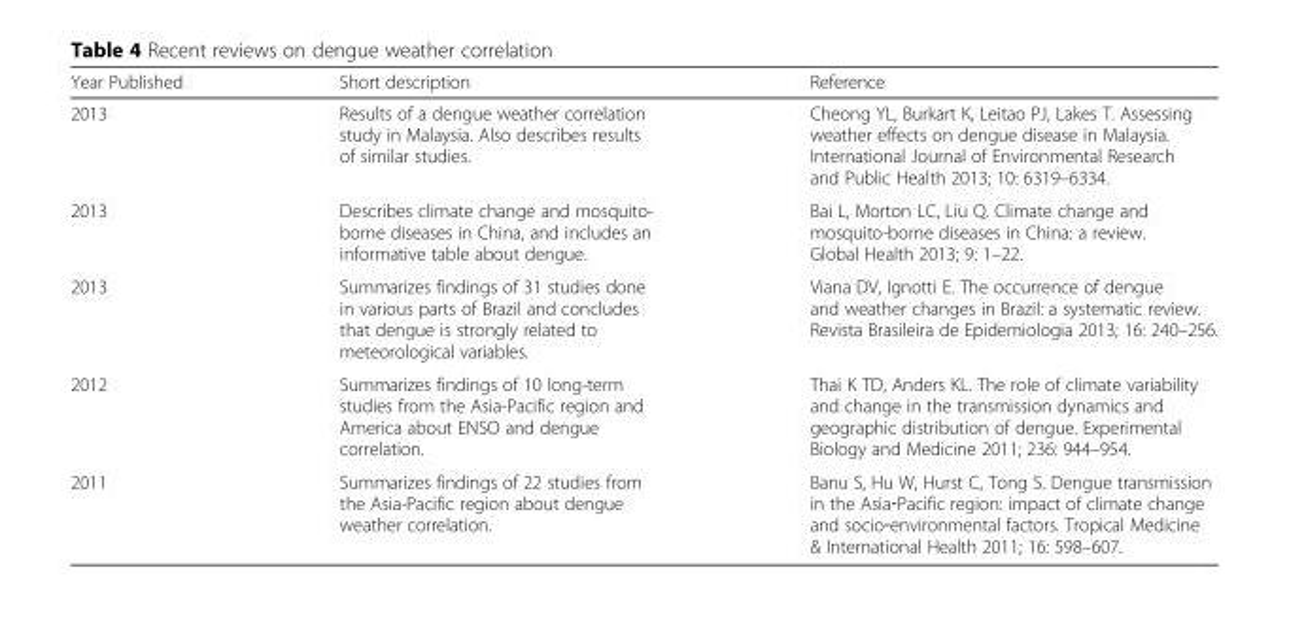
<table><thead><tr><td>Year Published</td><td>Short description</td><td>Reference</td></tr></thead><tbody><tr><td>2013</td><td>Results of a dengue weather correlation study in Malaysia. Also describes results of similar studies.</td><td>Cheong YL, Burkart K, Leitao PJ, Lakes T. Assessing weather effects on dengue disease in Malaysia. International Journal of Environmental Research and Public Health 2013; 10: 6319–6334.</td></tr><tr><td>2013</td><td>Describes climate change and mosquito- borne diseases in China, and includes an informative table about dengue.</td><td>Bai L, Morton LC, Liu Q. Climate change and mosquito-borne diseases in China: a review. Global Health 2013; 9: 1–22.</td></tr><tr><td>2013</td><td>Summarizes findings of 31 studies done in various parts of Brazil and concludes that dengue is strongly related to meteorological variables.</td><td>Viana DV, Ignotti E. The occurrence of dengue and weather changes in Brazil: a systematic review. Revista Brasileira de Epidemiologia 2013; 16: 240–256.</td></tr><tr><td>2012</td><td>Summarizes findings of 10 long-term studies from the Asia-Pacific region and America about ENSO and dengue correlation.</td><td>Thai K TD, Anders KL. The role of climate variability and change in the transmission dynamics and geographic distribution of dengue. Experimental Biology and Medicine 2011; 236: 944–954.</td></tr><tr><td>2011</td><td>Summarizes findings of 22 studies from the Asia-Pacific region about dengue weather correlation.</td><td>Banu S, Hu W, Hurst C, Tong S. Dengue transmission in the Asia‐Pacific region: impact of climate change and socio‐environmental factors. Tropical Medicine &amp; International Health 2011; 16: 598–607.</td></tr></tbody></table>